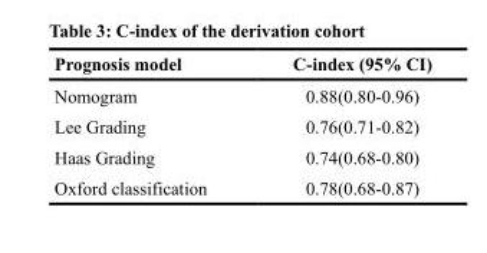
<table><thead><tr><td>Prognosis model</td><td>C-index (95% CI)</td></tr></thead><tbody><tr><td>Nomogram</td><td>0.88(0.80-0.96)</td></tr><tr><td>Lee Grading</td><td>0.76(0.71-0.82)</td></tr><tr><td>Haas Grading</td><td>0.74(0.68-0.80)</td></tr><tr><td>Oxford classification</td><td>0.78(0.68-0.87)</td></tr></tbody></table>